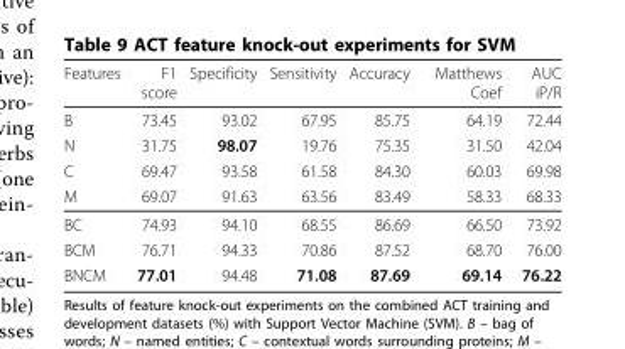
<table><thead><tr><td>Features</td><td>F1 score</td><td>Specificity</td><td>Sensitivity</td><td>Accuracy</td><td>Matthews Coef</td><td>AUC iP/R</td></tr></thead><tbody><tr><td>B</td><td>73.45</td><td>93.02</td><td>67.95</td><td>85.75</td><td>64.19</td><td>72.44</td></tr><tr><td>N</td><td>31.75</td><td>98.07</td><td>19.76</td><td>75.35</td><td>31.50</td><td>42.04</td></tr><tr><td>C</td><td>69.47</td><td>93.58</td><td>61.58</td><td>84.30</td><td>60.03</td><td>69.98</td></tr><tr><td>M</td><td>69.07</td><td>91.63</td><td>63.56</td><td>83.49</td><td>58.33</td><td>68.33</td></tr><tr><td>BC</td><td>74.93</td><td>94.10</td><td>68.55</td><td>86.69</td><td>66.50</td><td>73.92</td></tr><tr><td>BCM</td><td>76.71</td><td>94.33</td><td>70.86</td><td>87.52</td><td>68.70</td><td>76.00</td></tr><tr><td>BNCM</td><td>77.01</td><td>94.48</td><td>71.08</td><td>87.69</td><td>69.14</td><td>76.22</td></tr></tbody></table>